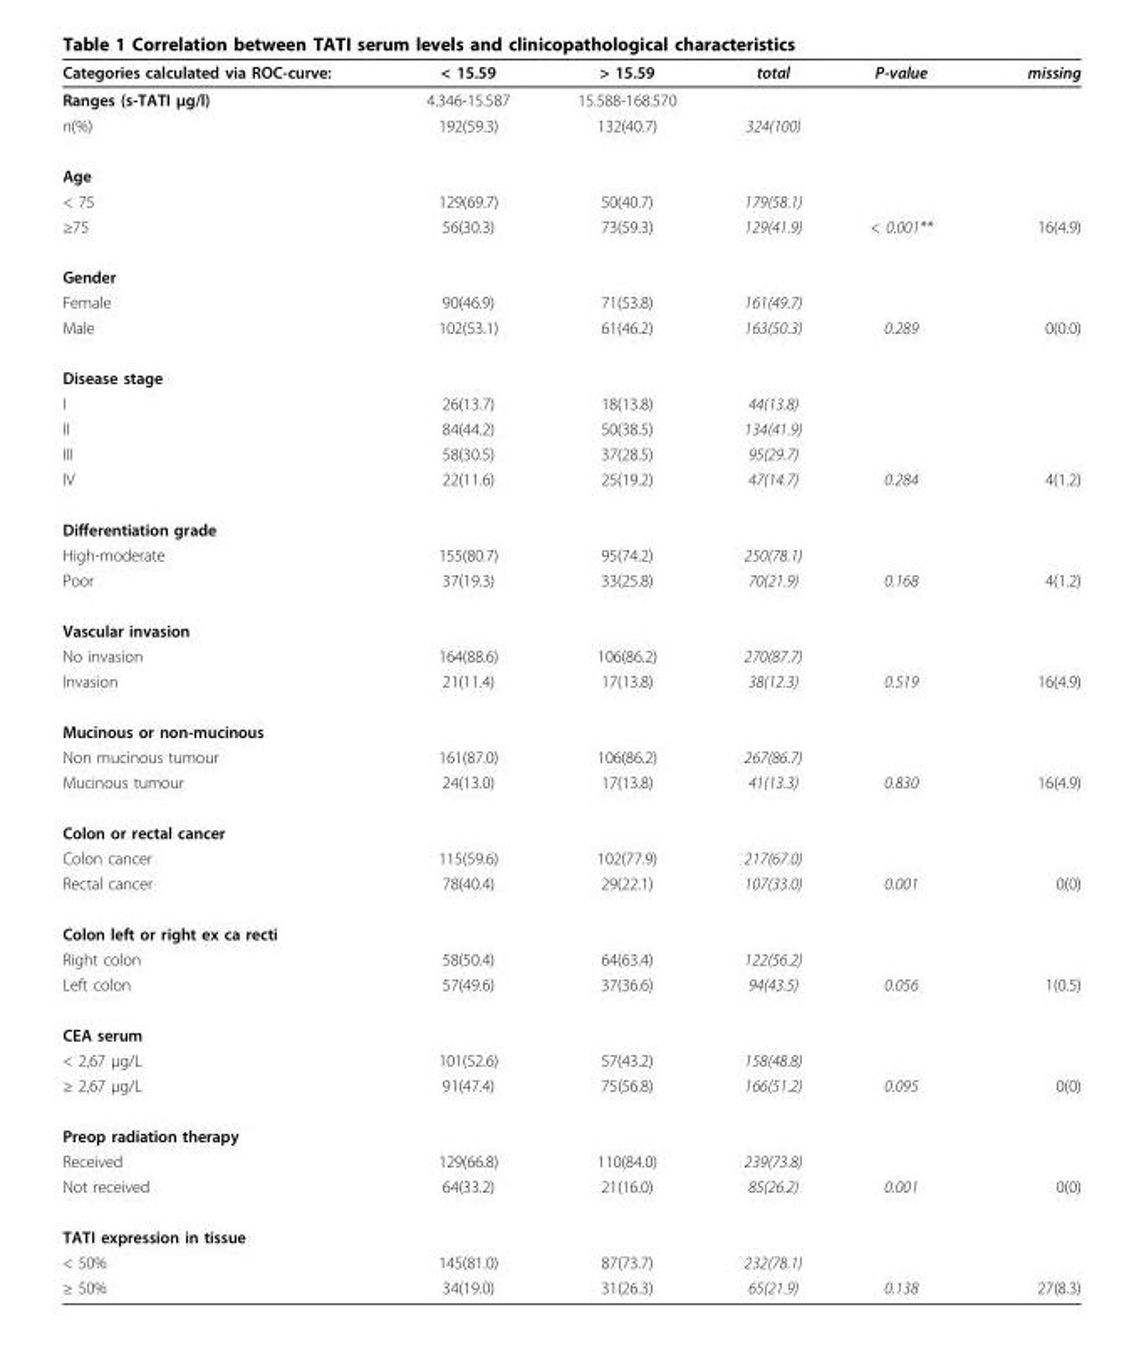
<table><thead><tr><td>Categories calculated via ROC-curve:</td><td>&lt; 15.59</td><td>&gt; 15.59</td><td>total</td><td>P-value</td><td>missing</td></tr></thead><tbody><tr><td>Ranges (s-TATI μg/l)</td><td>4.346-15.587</td><td>15.588-168.570</td><td></td><td></td><td></td></tr><tr><td>n(%)</td><td>192(59.3)</td><td>132(40.7)</td><td>324(100)</td><td></td><td></td></tr><tr><td colspan="6">Age</td></tr><tr><td>&lt; 75</td><td>129(69.7)</td><td>50(40.7)</td><td>179(58.1)</td><td></td><td></td></tr><tr><td>≥75</td><td>56(30.3)</td><td>73(59.3)</td><td>129(41.9)</td><td>&lt; 0.001**</td><td>16(4.9)</td></tr><tr><td colspan="6">Gender</td></tr><tr><td>Female</td><td>90(46.9)</td><td>71(53.8)</td><td>161(49.7)</td><td></td><td></td></tr><tr><td>Male</td><td>102(53.1)</td><td>61(46.2)</td><td>163(50.3)</td><td>0.289</td><td>0(0.0)</td></tr><tr><td colspan="6">Disease stage</td></tr><tr><td>I</td><td>26(13.7)</td><td>18(13.8)</td><td>44(13.8)</td><td></td><td></td></tr><tr><td>II</td><td>84(44.2)</td><td>50(38.5)</td><td>134(41.9)</td><td></td><td></td></tr><tr><td>III</td><td>58(30.5)</td><td>37(28.5)</td><td>95(29.7)</td><td></td><td></td></tr><tr><td>IV</td><td>22(11.6)</td><td>25(19.2)</td><td>47(14.7)</td><td>0.284</td><td>4(1.2)</td></tr><tr><td colspan="6">Differentiation grade</td></tr><tr><td>High-moderate</td><td>155(80.7)</td><td>95(74.2)</td><td>250(78.1)</td><td></td><td></td></tr><tr><td>Poor</td><td>37(19.3)</td><td>33(25.8)</td><td>70(21.9)</td><td>0.168</td><td>4(1.2)</td></tr><tr><td colspan="6">Vascular invasion</td></tr><tr><td>No invasion</td><td>164(88.6)</td><td>106(86.2)</td><td>270(87.7)</td><td></td><td></td></tr><tr><td>Invasion</td><td>21(11.4)</td><td>17(13.8)</td><td>38(12.3)</td><td>0.519</td><td>16(4.9)</td></tr><tr><td colspan="6">Mucinous or non-mucinous</td></tr><tr><td>Non mucinous tumour</td><td>161(87.0)</td><td>106(86.2)</td><td>267(86.7)</td><td></td><td></td></tr><tr><td>Mucinous tumour</td><td>24(13.0)</td><td>17(13.8)</td><td>41(13.3)</td><td>0.830</td><td>16(4.9)</td></tr><tr><td colspan="6">Colon or rectal cancer</td></tr><tr><td>Colon cancer</td><td>115(59.6)</td><td>102(77.9)</td><td>217(67.0)</td><td></td><td></td></tr><tr><td>Rectal cancer</td><td>78(40.4)</td><td>29(22.1)</td><td>107(33.0)</td><td>0.001</td><td>0(0)</td></tr><tr><td colspan="6">Colon left or right ex ca recti</td></tr><tr><td>Right colon</td><td>58(50.4)</td><td>64(63.4)</td><td>122(56.2)</td><td></td><td></td></tr><tr><td>Left colon</td><td>57(49.6)</td><td>37(36.6)</td><td>94(43.5)</td><td>0.056</td><td>1(0.5)</td></tr><tr><td colspan="6">CEA serum</td></tr><tr><td>&lt; 2,67 μg/L</td><td>101(52.6)</td><td>57(43.2)</td><td>158(48.8)</td><td></td><td></td></tr><tr><td>≥ 2,67 μg/L</td><td>91(47.4)</td><td>75(56.8)</td><td>166(51.2)</td><td>0.095</td><td>0(0)</td></tr><tr><td colspan="6">Preop radiation therapy</td></tr><tr><td>Received</td><td>129(66.8)</td><td>110(84.0)</td><td>239(73.8)</td><td></td><td></td></tr><tr><td>Not received</td><td>64(33.2)</td><td>21(16.0)</td><td>85(26.2)</td><td>0.001</td><td>0(0)</td></tr><tr><td colspan="6">TATI expression in tissue</td></tr><tr><td>&lt; 50%</td><td>145(81.0)</td><td>87(73.7)</td><td>232(78.1)</td><td></td><td></td></tr><tr><td>≥ 50%</td><td>34(19.0)</td><td>31(26.3)</td><td>65(21.9)</td><td>0.138</td><td>27(8.3)</td></tr></tbody></table>